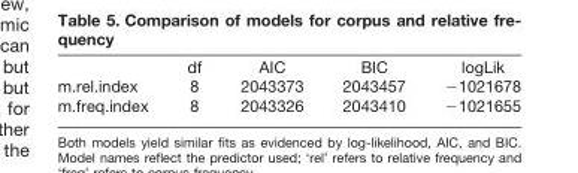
<table><thead><tr><td></td><td>df</td><td>AIC</td><td>BIC</td><td>logLik</td></tr></thead><tbody><tr><td>m.rel.index</td><td>8</td><td>2043373</td><td>2043457</td><td>−1021678</td></tr><tr><td>m.freq.index</td><td>8</td><td>2043326</td><td>2043410</td><td>−1021655</td></tr></tbody></table>